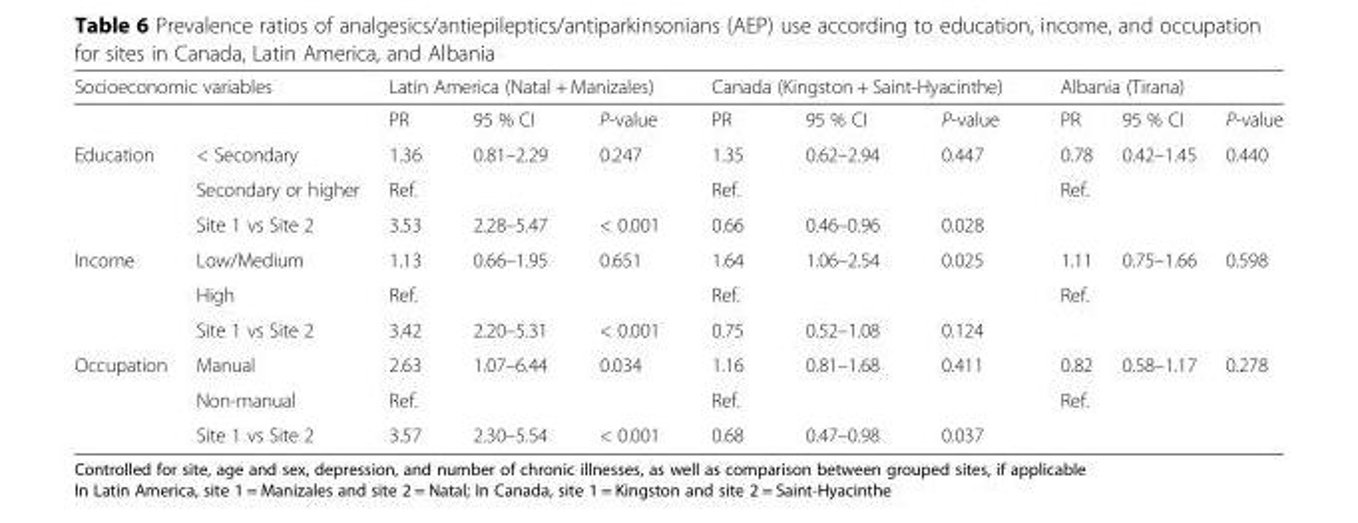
<table><thead><tr><td colspan="2">Socioeconomic variables</td><td colspan="3">Latin America (Natal + Manizales)</td><td colspan="3">Canada (Kingston + Saint-Hyacinthe)</td><td colspan="3">Albania (Tirana)</td></tr><tr><td></td><td></td><td>PR</td><td>95 % CI</td><td>P-value</td><td>PR</td><td>95 % CI</td><td>P-value</td><td>PR</td><td>95 % CI</td><td>P-value</td></tr></thead><tbody><tr><td rowspan="3">Education</td><td>&lt; Secondary</td><td>1.36</td><td>0.81–2.29</td><td>0.247</td><td>1.35</td><td>0.62–2.94</td><td>0.447</td><td>0.78</td><td>0.42–1.45</td><td>0.440</td></tr><tr><td>Secondary or higher</td><td>Ref.</td><td></td><td></td><td>Ref.</td><td></td><td></td><td>Ref.</td><td></td><td></td></tr><tr><td>Site 1 vs Site 2</td><td>3.53</td><td>2.28–5.47</td><td>&lt; 0.001</td><td>0.66</td><td>0.46–0.96</td><td>0.028</td><td></td><td></td><td></td></tr><tr><td rowspan="3">Income</td><td>Low/Medium</td><td>1.13</td><td>0.66–1.95</td><td>0.651</td><td>1.64</td><td>1.06–2.54</td><td>0.025</td><td>1.11</td><td>0.75–1.66</td><td>0.598</td></tr><tr><td>High</td><td>Ref.</td><td></td><td></td><td>Ref.</td><td></td><td></td><td>Ref.</td><td></td><td></td></tr><tr><td>Site 1 vs Site 2</td><td>3.42</td><td>2.20–5.31</td><td>&lt; 0.001</td><td>0.75</td><td>0.52–1.08</td><td>0.124</td><td></td><td></td><td></td></tr><tr><td rowspan="3">Occupation</td><td>Manual</td><td>2.63</td><td>1.07–6.44</td><td>0.034</td><td>1.16</td><td>0.81–1.68</td><td>0.411</td><td>0.82</td><td>0.58–1.17</td><td>0.278</td></tr><tr><td>Non-manual</td><td>Ref.</td><td></td><td></td><td>Ref.</td><td></td><td></td><td>Ref.</td><td></td><td></td></tr><tr><td>Site 1 vs Site 2</td><td>3.57</td><td>2.30–5.54</td><td>&lt; 0.001</td><td>0.68</td><td>0.47–0.98</td><td>0.037</td><td></td><td></td><td></td></tr></tbody></table>